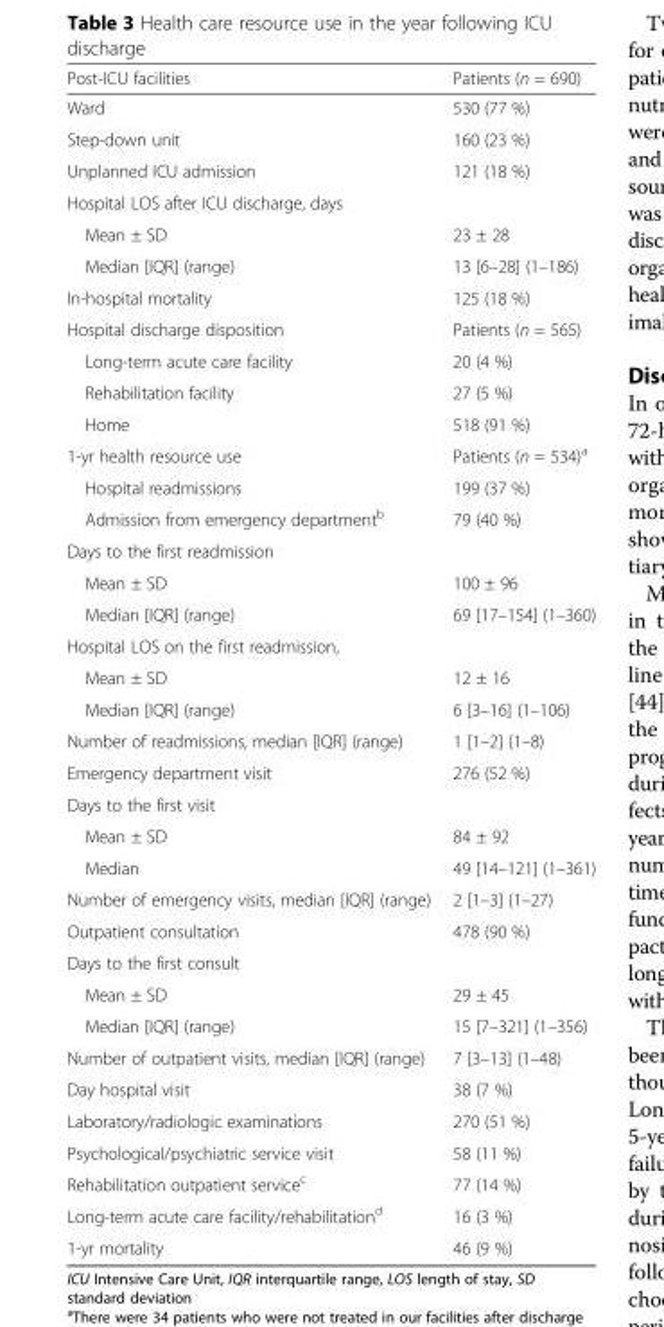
<table><thead><tr><td>Post-ICU facilities</td><td>Patients (n = 690)</td></tr></thead><tbody><tr><td>Ward</td><td>530 (77 %)</td></tr><tr><td>Step-down unit</td><td>160 (23 %)</td></tr><tr><td>Unplanned ICU admission</td><td>121 (18 %)</td></tr><tr><td colspan="2">Hospital LOS after ICU discharge, days</td></tr><tr><td>Mean ± SD</td><td>23 ± 28</td></tr><tr><td>Median [IQR] (range)</td><td>13 [6–28] (1–186)</td></tr><tr><td>In-hospital mortality</td><td>125 (18 %)</td></tr><tr><td>Hospital discharge disposition</td><td>Patients (n = 565)</td></tr><tr><td>Long-term acute care facility</td><td>20 (4 %)</td></tr><tr><td>Rehabilitation facility</td><td>27 (5 %)</td></tr><tr><td>Home</td><td>518 (91 %)</td></tr><tr><td>1-yr health resource use</td><td>Patients (n = 534)<sup>a</sup></td></tr><tr><td>Hospital readmissions</td><td>199 (37 %)</td></tr><tr><td>Admission from emergency department<sup>b</sup></td><td>79 (40 %)</td></tr><tr><td colspan="2">Days to the first readmission</td></tr><tr><td>Mean ± SD</td><td>100 ± 96</td></tr><tr><td>Median [IQR] (range)</td><td>69 [17–154] (1–360)</td></tr><tr><td colspan="2">Hospital LOS on the first readmission,</td></tr><tr><td>Mean ± SD</td><td>12 ± 16</td></tr><tr><td>Median [IQR] (range)</td><td>6 [3–16] (1–106)</td></tr><tr><td>Number of readmissions, median [IQR] (range)</td><td>1 [1–2] (1–8)</td></tr><tr><td>Emergency department visit</td><td>276 (52 %)</td></tr><tr><td colspan="2">Days to the first visit</td></tr><tr><td>Mean ± SD</td><td>84 ± 92</td></tr><tr><td>Median</td><td>49 [14–121] (1–361)</td></tr><tr><td>Number of emergency visits, median [IQR] (range)</td><td>2 [1–3] (1–27)</td></tr><tr><td>Outpatient consultation</td><td>478 (90 %)</td></tr><tr><td colspan="2">Days to the first consult</td></tr><tr><td>Mean ± SD</td><td>29 ± 45</td></tr><tr><td>Median [IQR] (range)</td><td>15 [7–321] (1–356)</td></tr><tr><td>Number of outpatient visits, median [IQR] (range)</td><td>7 [3–13] (1–48)</td></tr><tr><td>Day hospital visit</td><td>38 (7 %)</td></tr><tr><td>Laboratory/radiologic examinations</td><td>270 (51 %)</td></tr><tr><td>Psychological/psychiatric service visit</td><td>58 (11 %)</td></tr><tr><td>Rehabilitation outpatient service<sup>c</sup></td><td>77 (14 %)</td></tr><tr><td>Long-term acute care facility/rehabilitation<sup>d</sup></td><td>16 (3 %)</td></tr><tr><td>1-yr mortality</td><td>46 (9 %)</td></tr></tbody></table>